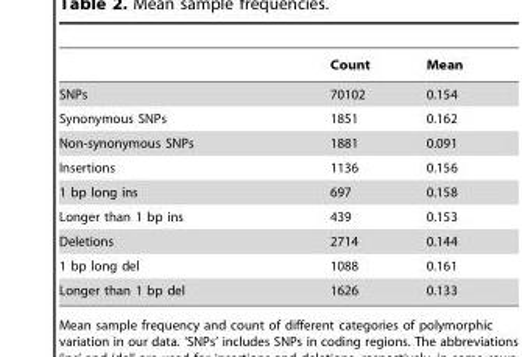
<table><thead><tr><td></td><td>Count</td><td>Mean</td></tr></thead><tbody><tr><td>SNPs</td><td>70102</td><td>0.154</td></tr><tr><td>Synonymous SNPs</td><td>1851</td><td>0.162</td></tr><tr><td>Non-synonymous SNPs</td><td>1881</td><td>0.091</td></tr><tr><td>Insertions</td><td>1136</td><td>0.156</td></tr><tr><td>1 bp long ins</td><td>697</td><td>0.158</td></tr><tr><td>Longer than 1 bp ins</td><td>439</td><td>0.153</td></tr><tr><td>Deletions</td><td>2714</td><td>0.144</td></tr><tr><td>1 bp long del</td><td>1088</td><td>0.161</td></tr><tr><td>Longer than 1 bp del</td><td>1626</td><td>0.133</td></tr></tbody></table>